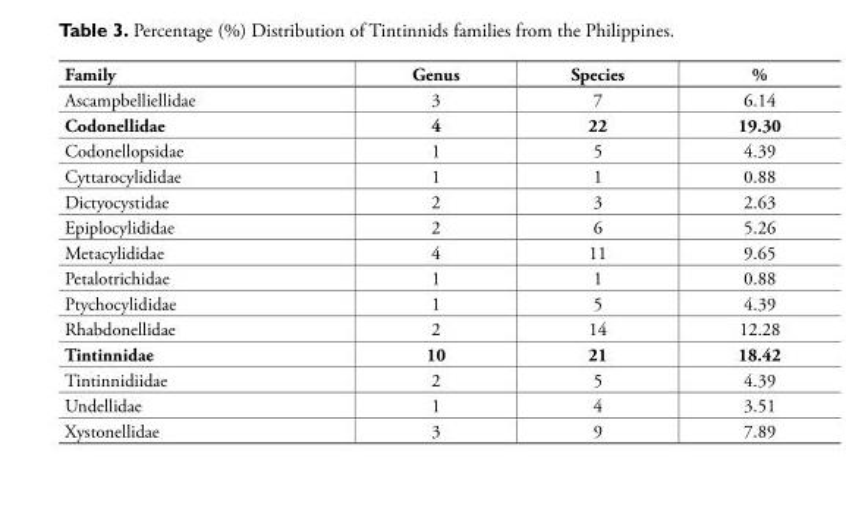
<table><thead><tr><td>Family</td><td>Genus</td><td>Species</td><td>%</td></tr></thead><tbody><tr><td>Ascampbelliellidae</td><td>3</td><td>7</td><td>6.14</td></tr><tr><td>Codonellidae</td><td>4</td><td>22</td><td>19.30</td></tr><tr><td>Codonellopsidae</td><td>1</td><td>5</td><td>4.39</td></tr><tr><td>Cyttarocylididae</td><td>1</td><td>1</td><td>0.88</td></tr><tr><td>Dictyocystidae</td><td>2</td><td>3</td><td>2.63</td></tr><tr><td>Epiplocylididae</td><td>2</td><td>6</td><td>5.26</td></tr><tr><td>Metacylididae</td><td>4</td><td>11</td><td>9.65</td></tr><tr><td>Petalotrichidae</td><td>1</td><td>1</td><td>0.88</td></tr><tr><td>Ptychocylididae</td><td>1</td><td>5</td><td>4.39</td></tr><tr><td>Rhabdonellidae</td><td>2</td><td>14</td><td>12.28</td></tr><tr><td>Tintinnidae</td><td>10</td><td>21</td><td>18.42</td></tr><tr><td>Tintinnidiidae</td><td>2</td><td>5</td><td>4.39</td></tr><tr><td>Undellidae</td><td>1</td><td>4</td><td>3.51</td></tr><tr><td>Xystonellidae</td><td>3</td><td>9</td><td>7.89</td></tr></tbody></table>